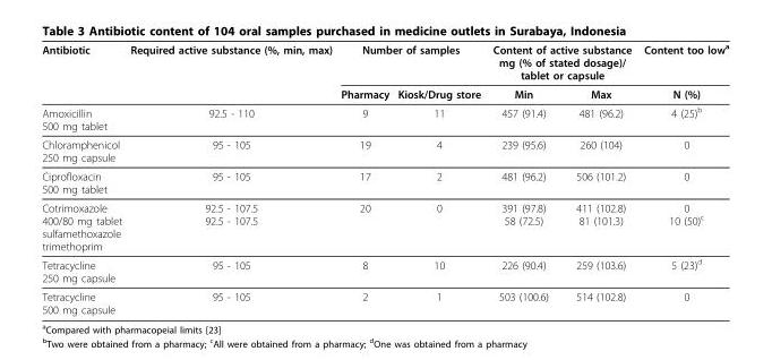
<table><thead><tr><td rowspan="2">Antibiotic</td><td rowspan="2">Required active substance (%, min, max)</td><td colspan="2">Number of samples</td><td colspan="2">Content of active substance mg (% of stated dosage)/ tablet or capsule</td><td rowspan="2">Content too low<sup>a</sup> N (%)</td></tr><tr><td>Pharmacy</td><td>Kiosk/Drug store</td><td>Min</td><td>Max</td></tr></thead><tbody><tr><td>Amoxicillin 500 mg tablet</td><td>92.5 - 110</td><td>9</td><td>11</td><td>457 (91.4)</td><td>481 (96.2)</td><td>4 (25)<sup>b</sup></td></tr><tr><td>Chloramphenicol 250 mg capsule</td><td>95 - 105</td><td>19</td><td>4</td><td>239 (95.6)</td><td>260 (104)</td><td>0</td></tr><tr><td>Ciprofloxacin 500 mg tablet</td><td>95 - 105</td><td>17</td><td>2</td><td>481 (96.2)</td><td>506 (101.2)</td><td>0</td></tr><tr><td>Cotrimoxazole 400/80 mg tablet sulfamethoxazole trimethoprim</td><td>92.5 - 107.5 92.5 - 107.5</td><td>20</td><td>0</td><td>391 (97.8) 58 (72.5)</td><td>411 (102.8) 81 (101.3)</td><td>0 10 (50)<sup>c</sup></td></tr><tr><td>Tetracycline 250 mg capsule</td><td>95 - 105</td><td>8</td><td>10</td><td>226 (90.4)</td><td>259 (103.6)</td><td>5 (23)<sup>d</sup></td></tr><tr><td>Tetracycline 500 mg capsule</td><td>95 - 105</td><td>2</td><td>1</td><td>503 (100.6)</td><td>514 (102.8)</td><td>0</td></tr></tbody></table>